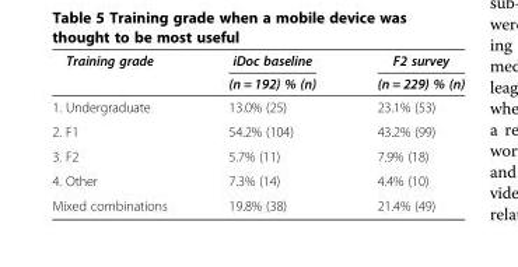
<table><thead><tr><td rowspan="2">Training grade</td><td rowspan="2">iDoc baseline (n = 192) % (n)</td><td rowspan="2">F2 survey (n = 229) % (n)</td></tr><tr></tr></thead><tbody><tr><td>1. Undergraduate</td><td>13.0% (25)</td><td>23.1% (53)</td></tr><tr><td>2. F1</td><td>54.2% (104)</td><td>43.2% (99)</td></tr><tr><td>3. F2</td><td>5.7% (11)</td><td>7.9% (18)</td></tr><tr><td>4. Other</td><td>7.3% (14)</td><td>4.4% (10)</td></tr><tr><td>Mixed combinations</td><td>19.8% (38)</td><td>21.4% (49)</td></tr></tbody></table>